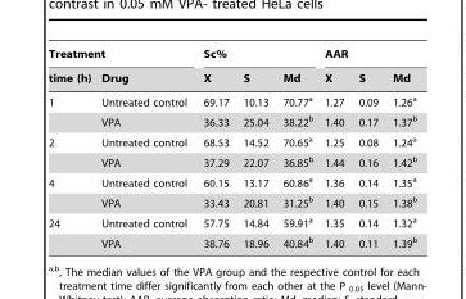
<table><thead><tr><td colspan="2">Treatment</td><td colspan="3">Sc%</td><td colspan="3">AAR</td></tr><tr><td>time (h)</td><td>Drug</td><td>X</td><td>S</td><td>Md</td><td>X</td><td>S</td><td>Md</td></tr></thead><tbody><tr><td rowspan="2">1</td><td>Untreated control</td><td>69.17</td><td>10.13</td><td>70.77<sup>a</sup></td><td>1.27</td><td>0.09</td><td>1.26<sup>a</sup></td></tr><tr><td>VPA</td><td>36.33</td><td>25.04</td><td>38.22<sup>b</sup></td><td>1.40</td><td>0.17</td><td>1.37<sup>b</sup></td></tr><tr><td rowspan="2">2</td><td>Untreated control</td><td>68.53</td><td>14.52</td><td>70.65<sup>a</sup></td><td>1.25</td><td>0.08</td><td>1.24<sup>a</sup></td></tr><tr><td>VPA</td><td>37.29</td><td>22.07</td><td>36.85<sup>b</sup></td><td>1.44</td><td>0.16</td><td>1.42<sup>b</sup></td></tr><tr><td rowspan="2">4</td><td>Untreated control</td><td>60.15</td><td>13.17</td><td>60.86<sup>a</sup></td><td>1.36</td><td>0.14</td><td>1.35<sup>a</sup></td></tr><tr><td>VPA</td><td>33.43</td><td>20.81</td><td>31.25<sup>b</sup></td><td>1.40</td><td>0.15</td><td>1.38<sup>b</sup></td></tr><tr><td rowspan="2">24</td><td>Untreated control</td><td>57.75</td><td>14.84</td><td>59.91<sup>a</sup></td><td>1.35</td><td>0.14</td><td>1.32<sup>a</sup></td></tr><tr><td>VPA</td><td>38.76</td><td>18.96</td><td>40.84<sup>b</sup></td><td>1.40</td><td>0.11</td><td>1.39<sup>b</sup></td></tr></tbody></table>